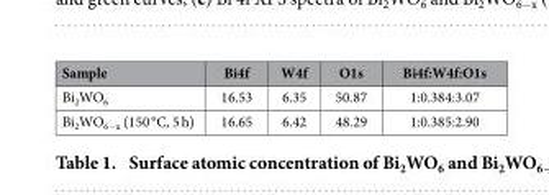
<table><thead><tr><td>Sample</td><td>Bi4f</td><td>W4f</td><td>O1s</td><td>Bi4f:W4f:O1s</td></tr></thead><tbody><tr><td>Bi<sub>2</sub>WO<sub>6</sub></td><td>16.53</td><td>6.35</td><td>50.87</td><td>1:0.384:3.07</td></tr><tr><td>Bi<sub>2</sub>WO<sub>6−x</sub> (150 °C, 5 h)</td><td>16.65</td><td>6.42</td><td>48.29</td><td>1:0.385:2.90</td></tr></tbody></table>